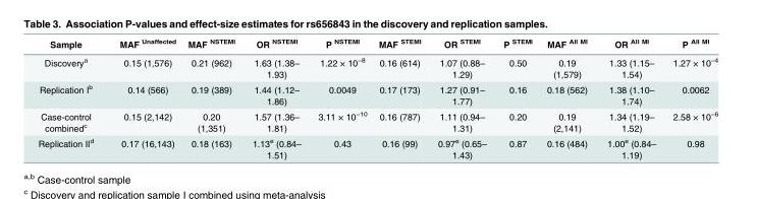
<table><thead><tr><td>Sample</td><td>MAF <sup>Unaffected</sup></td><td>MAF <sup>NSTEMI</sup></td><td>OR <sup>NSTEMI</sup></td><td>P <sup>NSTEMI</sup></td><td>MAF <sup>STEMI</sup></td><td>OR <sup>STEMI</sup></td><td>P <sup>STEMI</sup></td><td>MAF <sup>All MI</sup></td><td>OR <sup>All MI</sup></td><td>P <sup>All MI</sup></td></tr></thead><tbody><tr><td>Discovery<sup>a</sup></td><td>0.15 (1,576)</td><td>0.21 (962)</td><td>1.63 (1.38– 1.93)</td><td>1.22 × 10<sup>−8</sup></td><td>0.16 (614)</td><td>1.07 (0.88– 1.29)</td><td>0.50</td><td>0.19 (1,579)</td><td>1.33 (1.15– 1.54)</td><td>1.27 × 10<sup>−4</sup></td></tr><tr><td>Replication I<sup>b</sup></td><td>0.14 (566)</td><td>0.19 (389)</td><td>1.44 (1.12– 1.86)</td><td>0.0049</td><td>0.17 (173)</td><td>1.27 (0.91– 1.77)</td><td>0.16</td><td>0.18 (562)</td><td>1.38 (1.10– 1.74)</td><td>0.0062</td></tr><tr><td>Case-control combined<sup>c</sup></td><td>0.15 (2,142)</td><td>0.20 (1,351)</td><td>1.57 (1.36– 1.81)</td><td>3.11 × 10<sup>−10</sup></td><td>0.16 (787)</td><td>1.11 (0.94– 1.31)</td><td>0.20</td><td>0.19 (2,141)</td><td>1.34 (1.19– 1.52)</td><td>2.58 × 10<sup>−6</sup></td></tr><tr><td>Replication II<sup>d</sup></td><td>0.17 (16,143)</td><td>0.18 (163)</td><td>1.13<sup>e</sup> (0.84– 1.51)</td><td>0.43</td><td>0.16 (99)</td><td>0.97<sup>e</sup> (0.65– 1.43)</td><td>0.87</td><td>0.16 (484)</td><td>1.00<sup>e</sup> (0.84– 1.19)</td><td>0.98</td></tr></tbody></table>